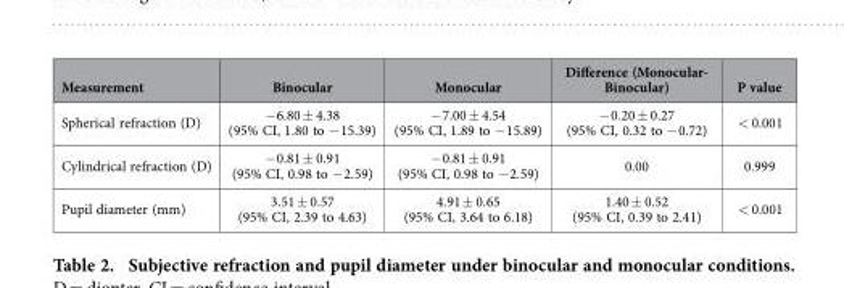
<table><thead><tr><td>Measurement</td><td>Binocular</td><td>Monocular</td><td>Difference (Monocular- Binocular)</td><td>P value</td></tr></thead><tbody><tr><td>Spherical refraction (D)</td><td>− 6.80 ± 4.38 (95% CI, 1.80 to − 15.39)</td><td>− 7.00 ± 4.54 (95% CI, 1.89 to − 15.89)</td><td>− 0.20 ± 0.27 (95% CI, 0.32 to − 0.72)</td><td>&lt; 0.001</td></tr><tr><td>Cylindrical refraction (D)</td><td>− 0.81 ± 0.91 (95% CI, 0.98 to − 2.59)</td><td>− 0.81 ± 0.91 (95% CI, 0.98 to − 2.59)</td><td>0.00</td><td>0.999</td></tr><tr><td>Pupil diameter (mm)</td><td>3.51 ± 0.57 (95% CI, 2.39 to 4.63)</td><td>4.91 ± 0.65 (95% CI, 3.64 to 6.18)</td><td>1.40 ± 0.52 (95% CI, 0.39 to 2.41)</td><td>&lt; 0.001</td></tr></tbody></table>